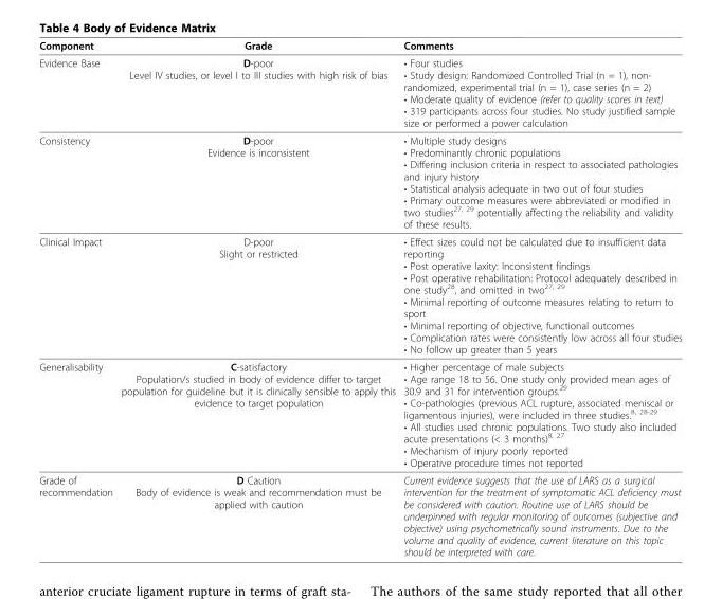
<table><thead><tr><td>Component</td><td>Grade</td><td>Comments</td></tr></thead><tbody><tr><td>Evidence Base</td><td>D-poor Level IV studies, or level I to III studies with high risk of bias</td><td>• Four studies • Study design: Randomized Controlled Trial (n = 1), non- randomized, experimental trial (n = 1), case series (n = 2) • Moderate quality of evidence (refer to quality scores in text) • 319 participants across four studies. No study justified sample size or performed a power calculation</td></tr><tr><td>Consistency</td><td>D-poor Evidence is inconsistent</td><td>• Multiple study designs • Predominantly chronic populations • Differing inclusion criteria in respect to associated pathologies and injury history • Statistical analysis adequate in two out of four studies • Primary outcome measures were abbreviated or modified in two studies<sup>27, 29</sup> potentially affecting the reliability and validity of these results.</td></tr><tr><td>Clinical Impact</td><td>D-poor Slight or restricted</td><td>• Effect sizes could not be calculated due to insufficient data reporting • Post operative laxity: Inconsistent findings • Post operative rehabilitation: Protocol adequately described in one study<sup>28</sup>, and omitted in two<sup>27, 29</sup> • Minimal reporting of outcome measures relating to return to sport • Minimal reporting of objective, functional outcomes • Complication rates were consistently low across all four studies • No follow up greater than 5 years</td></tr><tr><td>Generalisability</td><td>C-satisfactory Population/s studied in body of evidence differ to target population for guideline but it is clinically sensible to apply this evidence to target population</td><td>• Higher percentage of male subjects • Age range 18 to 56. One study only provided mean ages of 30.9 and 31 for intervention groups.<sup>29</sup> • Co-pathologies (previous ACL rupture, associated meniscal or ligamentous injuries), were included in three studies.<sup>8, 28-29</sup> • All studies used chronic populations. Two study also included acute presentations (&lt; 3 months)<sup>8, 27</sup> • Mechanism of injury poorly reported • Operative procedure times not reported</td></tr><tr><td>Grade of recommendation</td><td>D Caution Body of evidence is weak and recommendation must be applied with caution</td><td>Current evidence suggests that the use of LARS as a surgical intervention for the treatment of symptomatic ACL deficiency must be considered with caution. Routine use of LARS should be underpinned with regular monitoring of outcomes (subjective and objective) using psychometrically sound instruments. Due to the volume and quality of evidence, current literature on this topic should be interpreted with care.</td></tr></tbody></table>